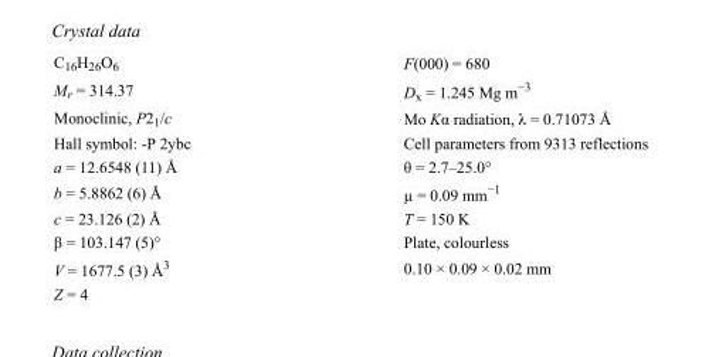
<table><tbody><tr><td>C<sub>16</sub>H<sub>26</sub>O<sub>6</sub></td><td>F(000) = 680</td></tr><tr><td>M<sub>r</sub> = 314.37</td><td>D<sub>x</sub> = 1.245 Mg m<sup>−3</sup></td></tr><tr><td>Monoclinic, P2<sub>1</sub>/c</td><td>Mo Kα radiation, λ = 0.71073 Å</td></tr><tr><td>Hall symbol: -P 2ybc</td><td>Cell parameters from 9313 reflections</td></tr><tr><td>a = 12.6548 (11) Å</td><td>θ = 2.7–25.0°</td></tr><tr><td>b = 5.8862 (6) Å</td><td>µ = 0.09 mm<sup>−1</sup></td></tr><tr><td>c = 23.126 (2) Å</td><td>T = 150 K</td></tr><tr><td>β = 103.147 (5)°</td><td>Plate, colourless</td></tr><tr><td>V = 1677.5 (3) Å<sup>3</sup></td><td>0.10 × 0.09 × 0.02 mm</td></tr><tr><td>Z = 4</td><td></td></tr></tbody></table>